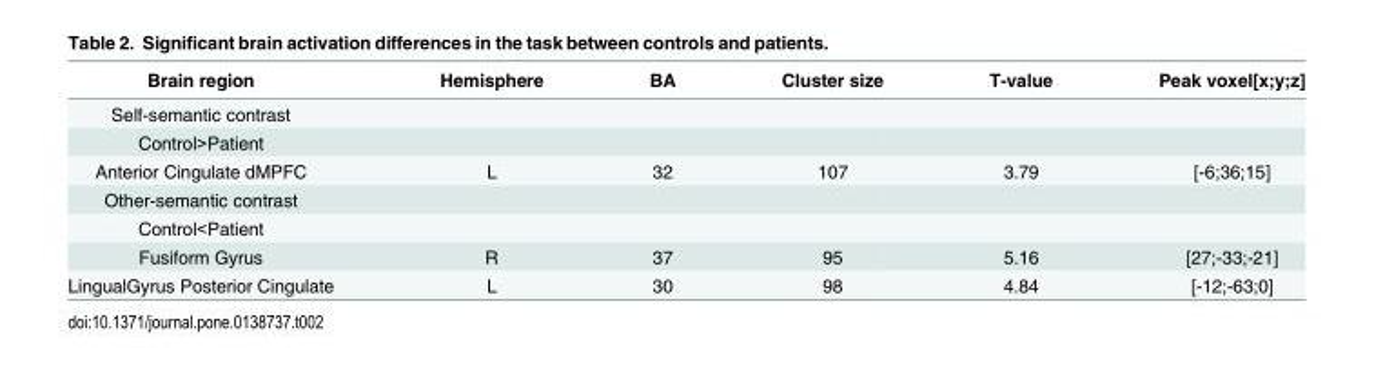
<table><thead><tr><td>Brain region</td><td>Hemisphere</td><td>BA</td><td>Cluster size</td><td>T-value</td><td>Peak voxel[x;y;z]</td></tr></thead><tbody><tr><td colspan="6">Self-semantic contrast</td></tr><tr><td colspan="6">Control&gt;Patient</td></tr><tr><td>Anterior Cingulate dMPFC</td><td>L</td><td>32</td><td>107</td><td>3.79</td><td>[-6;36;15]</td></tr><tr><td colspan="6">Other-semantic contrast</td></tr><tr><td colspan="6">Control&lt;Patient</td></tr><tr><td>Fusiform Gyrus</td><td>R</td><td>37</td><td>95</td><td>5.16</td><td>[27;-33;-21]</td></tr><tr><td>LingualGyrus Posterior Cingulate</td><td>L</td><td>30</td><td>98</td><td>4.84</td><td>[-12;-63;0]</td></tr></tbody></table>